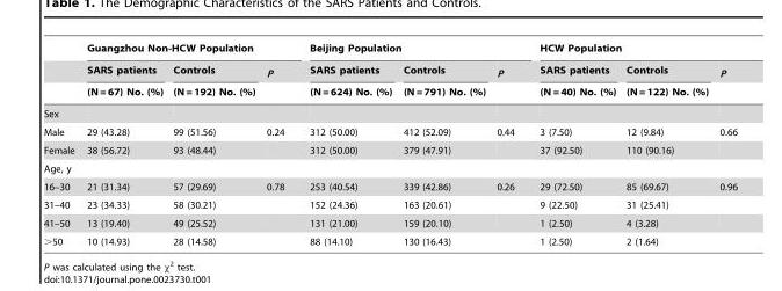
<table><thead><tr><td rowspan="3"></td><td colspan="3">Guangzhou Non-HCW Population</td><td colspan="3">Beijing Population</td><td colspan="3">HCW Population</td></tr><tr><td rowspan="2">SARS patients (N = 67) No. (%)</td><td rowspan="2">Controls (N = 192) No. (%)</td><td rowspan="2">P</td><td rowspan="2">SARS patients (N = 624) No. (%)</td><td rowspan="2">Controls (N = 791) No. (%)</td><td rowspan="2">P</td><td rowspan="2">SARS patients (N = 40) No. (%)</td><td rowspan="2">Controls (N = 122) No. (%)</td><td rowspan="2">P</td></tr><tr></tr></thead><tbody><tr><td colspan="10">Sex</td></tr><tr><td>Male</td><td>29 (43.28)</td><td>99 (51.56)</td><td>0.24</td><td>312 (50.00)</td><td>412 (52.09)</td><td>0.44</td><td>3 (7.50)</td><td>12 (9.84)</td><td>0.66</td></tr><tr><td>Female</td><td>38 (56.72)</td><td>93 (48.44)</td><td></td><td>312 (50.00)</td><td>379 (47.91)</td><td></td><td>37 (92.50)</td><td>110 (90.16)</td><td></td></tr><tr><td colspan="10">Age, y</td></tr><tr><td>16–30</td><td>21 (31.34)</td><td>57 (29.69)</td><td>0.78</td><td>253 (40.54)</td><td>339 (42.86)</td><td>0.26</td><td>29 (72.50)</td><td>85 (69.67)</td><td>0.96</td></tr><tr><td>31–40</td><td>23 (34.33)</td><td>58 (30.21)</td><td></td><td>152 (24.36)</td><td>163 (20.61)</td><td></td><td>9 (22.50)</td><td>31 (25.41)</td><td></td></tr><tr><td>41–50</td><td>13 (19.40)</td><td>49 (25.52)</td><td></td><td>131 (21.00)</td><td>159 (20.10)</td><td></td><td>1 (2.50)</td><td>4 (3.28)</td><td></td></tr><tr><td>&gt;50</td><td>10 (14.93)</td><td>28 (14.58)</td><td></td><td>88 (14.10)</td><td>130 (16.43)</td><td></td><td>1 (2.50)</td><td>2 (1.64)</td><td></td></tr></tbody></table>